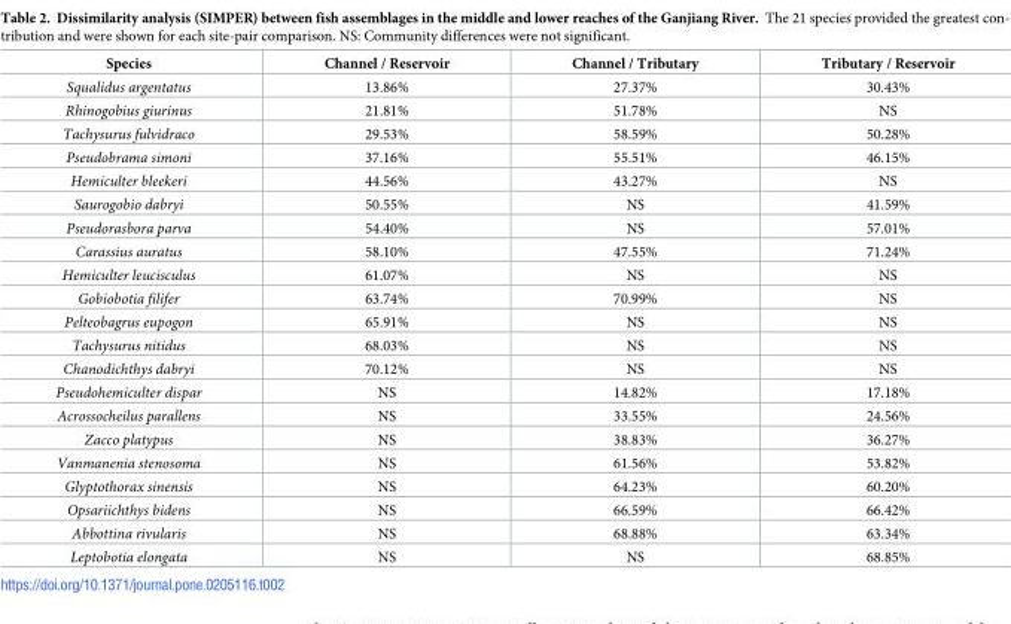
<table><thead><tr><td>Species</td><td>Channel / Reservoir</td><td>Channel / Tributary</td><td>Tributary / Reservoir</td></tr></thead><tbody><tr><td>Squalidus argentatus</td><td>13.86%</td><td>27.37%</td><td>30.43%</td></tr><tr><td>Rhinogobius giurinus</td><td>21.81%</td><td>51.78%</td><td>NS</td></tr><tr><td>Tachysurus fulvidraco</td><td>29.53%</td><td>58.59%</td><td>50.28%</td></tr><tr><td>Pseudobrama simoni</td><td>37.16%</td><td>55.51%</td><td>46.15%</td></tr><tr><td>Hemiculter bleekeri</td><td>44.56%</td><td>43.27%</td><td>NS</td></tr><tr><td>Saurogobio dabryi</td><td>50.55%</td><td>NS</td><td>41.59%</td></tr><tr><td>Pseudorasbora parva</td><td>54.40%</td><td>NS</td><td>57.01%</td></tr><tr><td>Carassius auratus</td><td>58.10%</td><td>47.55%</td><td>71.24%</td></tr><tr><td>Hemiculter leucisculus</td><td>61.07%</td><td>NS</td><td>NS</td></tr><tr><td>Gobiobotia filifer</td><td>63.74%</td><td>70.99%</td><td>NS</td></tr><tr><td>Pelteobagrus eupogon</td><td>65.91%</td><td>NS</td><td>NS</td></tr><tr><td>Tachysurus nitidus</td><td>68.03%</td><td>NS</td><td>NS</td></tr><tr><td>Chanodichthys dabryi</td><td>70.12%</td><td>NS</td><td>NS</td></tr><tr><td>Pseudohemiculter dispar</td><td>NS</td><td>14.82%</td><td>17.18%</td></tr><tr><td>Acrossocheilus parallens</td><td>NS</td><td>33.55%</td><td>24.56%</td></tr><tr><td>Zacco platypus</td><td>NS</td><td>38.83%</td><td>36.27%</td></tr><tr><td>Vanmanenia stenosoma</td><td>NS</td><td>61.56%</td><td>53.82%</td></tr><tr><td>Glyptothorax sinensis</td><td>NS</td><td>64.23%</td><td>60.20%</td></tr><tr><td>Opsariichthys bidens</td><td>NS</td><td>66.59%</td><td>66.42%</td></tr><tr><td>Abbottina rivularis</td><td>NS</td><td>68.88%</td><td>63.34%</td></tr><tr><td>Leptobotia elongata</td><td>NS</td><td>NS</td><td>68.85%</td></tr></tbody></table>